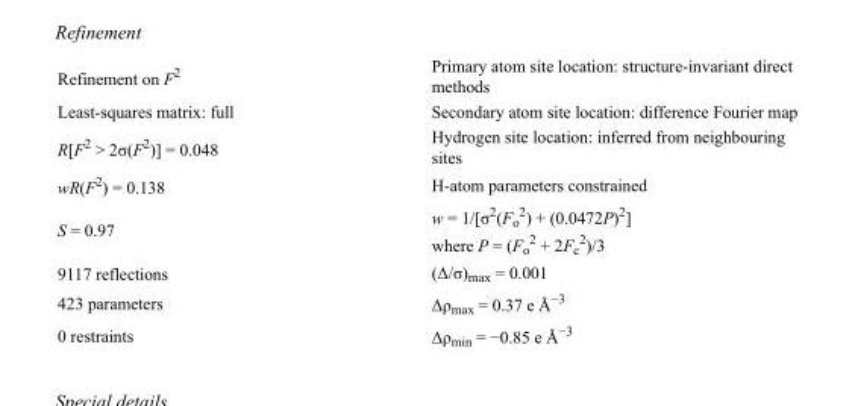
<table><tbody><tr><td>Refinement on F<sup>2</sup></td><td>Primary atom site location: structure-invariant direct methods</td></tr><tr><td>Least-squares matrix: full</td><td>Secondary atom site location: difference Fourier map</td></tr><tr><td>R[F<sup>2</sup> &gt; 2σ(F<sup>2</sup>)] = 0.048</td><td>Hydrogen site location: inferred from neighbouring sites</td></tr><tr><td>wR(F<sup>2</sup>) = 0.138</td><td>H-atom parameters constrained</td></tr><tr><td>S = 0.97</td><td>w = 1/[σ<sup>2</sup>(F<sub>o</sub> <sup>2</sup>) + (0.0472P)<sup>2</sup>] where P = (F<sub>o</sub> <sup>2</sup> + 2F<sub>c</sub> <sup>2</sup>)/3</td></tr><tr><td>9117 reflections</td><td>(Δ/σ)<sub>max</sub> = 0.001</td></tr><tr><td>423 parameters</td><td>Δρ<sub>max</sub> = 0.37 e Å<sup>−3</sup></td></tr><tr><td>0 restraints</td><td>Δρ<sub>min</sub> = −0.85 e Å<sup>−3</sup></td></tr></tbody></table>